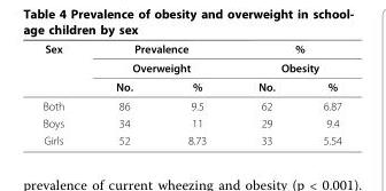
<table><thead><tr><td rowspan="3">Sex</td><td rowspan="2" colspan="2">Prevalence Overweight</td><td rowspan="2" colspan="2">% Obesity</td></tr><tr></tr><tr><td>No.</td><td>%</td><td>No.</td><td>%</td></tr></thead><tbody><tr><td>Both</td><td>86</td><td>9.5</td><td>62</td><td>6.87</td></tr><tr><td>Boys</td><td>34</td><td>11</td><td>29</td><td>9.4</td></tr><tr><td>Girls</td><td>52</td><td>8.73</td><td>33</td><td>5.54</td></tr></tbody></table>